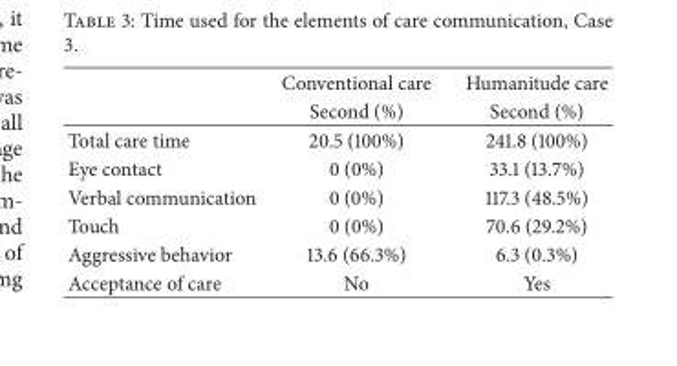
<table><thead><tr><td rowspan="2"></td><td rowspan="2">Conventional care Second (%)</td><td rowspan="2">Humanitude care Second (%)</td></tr><tr></tr></thead><tbody><tr><td>Total care time</td><td>20.5 (100%)</td><td>241.8 (100%)</td></tr><tr><td>Eye contact</td><td>0 (0%)</td><td>33.1 (13.7%)</td></tr><tr><td>Verbal communication</td><td>0 (0%)</td><td>117.3 (48.5%)</td></tr><tr><td>Touch</td><td>0 (0%)</td><td>70.6 (29.2%)</td></tr><tr><td>Aggressive behavior</td><td>13.6 (66.3%)</td><td>6.3 (0.3%)</td></tr><tr><td>Acceptance of care</td><td>No</td><td>Yes</td></tr></tbody></table>